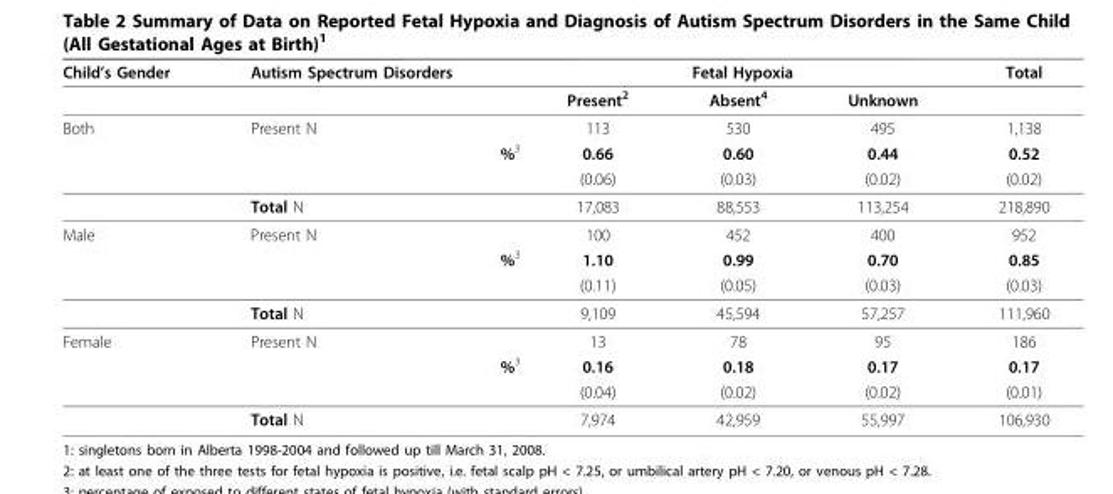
<table><thead><tr><td rowspan="2">Child’s Gender</td><td rowspan="2">Autism Spectrum Disorders</td><td colspan="3">Fetal Hypoxia</td><td rowspan="2">Total</td></tr><tr><td>Present<sup>2</sup></td><td>Absent<sup>4</sup></td><td>Unknown</td></tr></thead><tbody><tr><td rowspan="4">Both</td><td>Present N</td><td>113</td><td>530</td><td>495</td><td>1,138</td></tr><tr><td>%<sup>3</sup></td><td>0.66</td><td>0.60</td><td>0.44</td><td>0.52</td></tr><tr><td></td><td>(0.06)</td><td>(0.03)</td><td>(0.02)</td><td>(0.02)</td></tr><tr><td>Total N</td><td>17,083</td><td>88,553</td><td>113,254</td><td>218,890</td></tr><tr><td rowspan="4">Male</td><td>Present N</td><td>100</td><td>452</td><td>400</td><td>952</td></tr><tr><td>%<sup>3</sup></td><td>1.10</td><td>0.99</td><td>0.70</td><td>0.85</td></tr><tr><td></td><td>(0.11)</td><td>(0.05)</td><td>(0.03)</td><td>(0.03)</td></tr><tr><td>Total N</td><td>9,109</td><td>45,594</td><td>57,257</td><td>111,960</td></tr><tr><td rowspan="4">Female</td><td>Present N</td><td>13</td><td>78</td><td>95</td><td>186</td></tr><tr><td>%<sup>3</sup></td><td>0.16</td><td>0.18</td><td>0.17</td><td>0.17</td></tr><tr><td></td><td>(0.04)</td><td>(0.02)</td><td>(0.02)</td><td>(0.01)</td></tr><tr><td>Total N</td><td>7,974</td><td>42,959</td><td>55,997</td><td>106,930</td></tr></tbody></table>